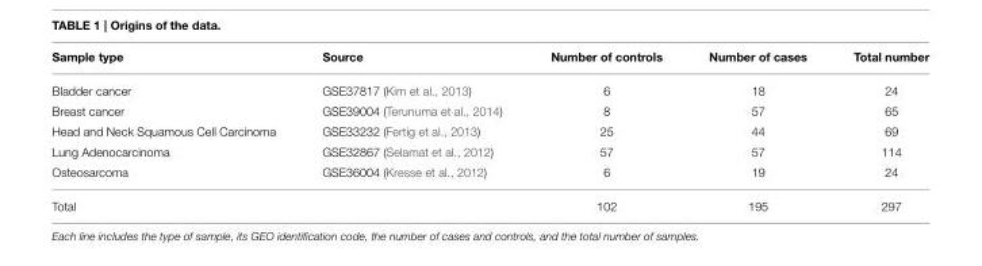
<table><thead><tr><td>Sample type</td><td>Source</td><td>Number of controls</td><td>Number of cases</td><td>Total number</td></tr></thead><tbody><tr><td>Bladder cancer</td><td>GSE37817 (Kim et al., 2013)</td><td>6</td><td>18</td><td>24</td></tr><tr><td>Breast cancer</td><td>GSE39004 (Terunuma et al., 2014)</td><td>8</td><td>57</td><td>65</td></tr><tr><td>Head and Neck Squamous Cell Carcinoma</td><td>GSE33232 (Fertig et al., 2013)</td><td>25</td><td>44</td><td>69</td></tr><tr><td>Lung Adenocarcinoma</td><td>GSE32867 (Selamat et al., 2012)</td><td>57</td><td>57</td><td>114</td></tr><tr><td>Osteosarcoma</td><td>GSE36004 (Kresse et al., 2012)</td><td>6</td><td>19</td><td>24</td></tr><tr><td>Total</td><td></td><td>102</td><td>195</td><td>297</td></tr></tbody></table>